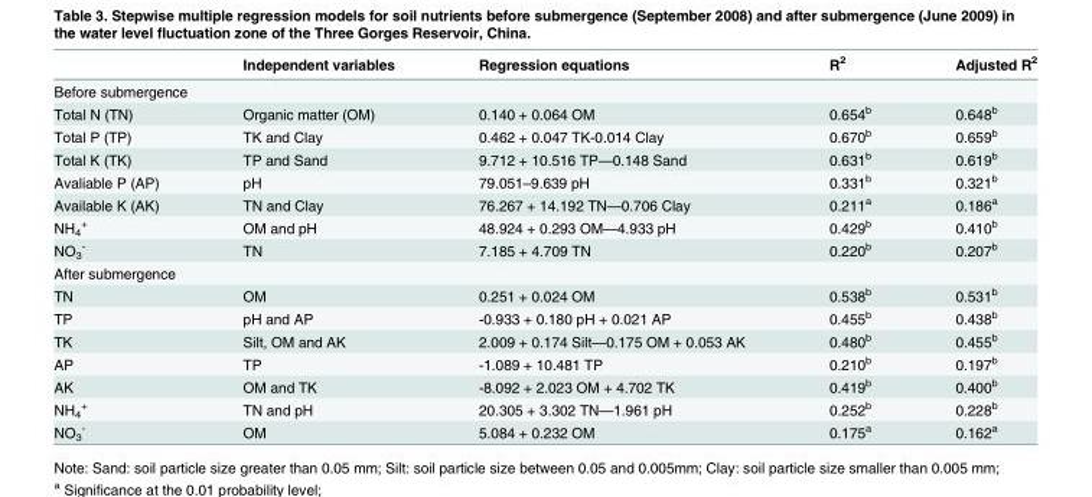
<table><thead><tr><td></td><td>Independent variables</td><td>Regression equations</td><td>R<sup>2</sup></td><td>Adjusted R<sup>2</sup></td></tr></thead><tbody><tr><td colspan="5">Before submergence</td></tr><tr><td>Total N (TN)</td><td>Organic matter (OM)</td><td>0.140 + 0.064 OM</td><td>0.654<sup>b</sup></td><td>0.648<sup>b</sup></td></tr><tr><td>Total P (TP)</td><td>TK and Clay</td><td>0.462 + 0.047 TK-0.014 Clay</td><td>0.670<sup>b</sup></td><td>0.659<sup>b</sup></td></tr><tr><td>Total K (TK)</td><td>TP and Sand</td><td>9.712 + 10.516 TP—0.148 Sand</td><td>0.631<sup>b</sup></td><td>0.619<sup>b</sup></td></tr><tr><td>Avaliable P (AP)</td><td>pH</td><td>79.051–9.639 pH</td><td>0.331<sup>b</sup></td><td>0.321<sup>b</sup></td></tr><tr><td>Available K (AK)</td><td>TN and Clay</td><td>76.267 + 14.192 TN—0.706 Clay</td><td>0.211<sup>a</sup></td><td>0.186<sup>a</sup></td></tr><tr><td>NH<sub>4</sub> <sup>+</sup></td><td>OM and pH</td><td>48.924 + 0.293 OM—4.933 pH</td><td>0.429<sup>b</sup></td><td>0.410<sup>b</sup></td></tr><tr><td>NO<sub>3</sub> <sup>-</sup></td><td>TN</td><td>7.185 + 4.709 TN</td><td>0.220<sup>b</sup></td><td>0.207<sup>b</sup></td></tr><tr><td colspan="5">After submergence</td></tr><tr><td>TN</td><td>OM</td><td>0.251 + 0.024 OM</td><td>0.538<sup>b</sup></td><td>0.531<sup>b</sup></td></tr><tr><td>TP</td><td>pH and AP</td><td>-0.933 + 0.180 pH + 0.021 AP</td><td>0.455<sup>b</sup></td><td>0.438<sup>b</sup></td></tr><tr><td>TK</td><td>Silt, OM and AK</td><td>2.009 + 0.174 Silt—0.175 OM + 0.053 AK</td><td>0.480<sup>b</sup></td><td>0.455<sup>b</sup></td></tr><tr><td>AP</td><td>TP</td><td>-1.089 + 10.481 TP</td><td>0.210<sup>b</sup></td><td>0.197<sup>b</sup></td></tr><tr><td>AK</td><td>OM and TK</td><td>-8.092 + 2.023 OM + 4.702 TK</td><td>0.419<sup>b</sup></td><td>0.400<sup>b</sup></td></tr><tr><td>NH<sub>4</sub> <sup>+</sup></td><td>TN and pH</td><td>20.305 + 3.302 TN—1.961 pH</td><td>0.252<sup>b</sup></td><td>0.228<sup>b</sup></td></tr><tr><td>NO<sub>3</sub> <sup>-</sup></td><td>OM</td><td>5.084 + 0.232 OM</td><td>0.175<sup>a</sup></td><td>0.162<sup>a</sup></td></tr></tbody></table>